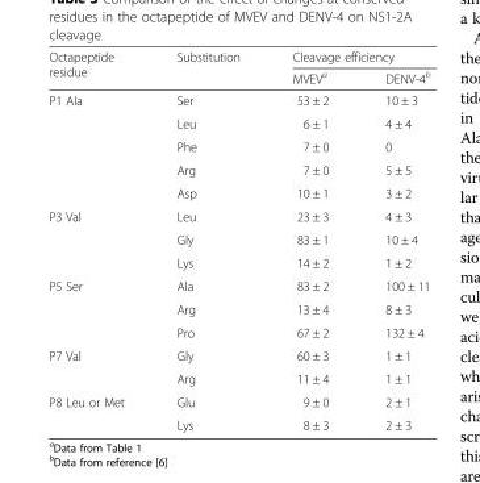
<table><thead><tr><td rowspan="2">Octapeptide residue</td><td rowspan="2">Substitution</td><td colspan="2">Cleavage efficiency</td></tr><tr><td>MVEV<sup>a</sup></td><td>DENV-4<sup>b</sup></td></tr></thead><tbody><tr><td rowspan="5">P1 Ala</td><td>Ser</td><td>53 ± 2</td><td>10 ± 3</td></tr><tr><td>Leu</td><td>6 ± 1</td><td>4 ± 4</td></tr><tr><td>Phe</td><td>7 ± 0</td><td>0</td></tr><tr><td>Arg</td><td>7 ± 0</td><td>5 ± 5</td></tr><tr><td>Asp</td><td>10 ± 1</td><td>3 ± 2</td></tr><tr><td rowspan="3">P3 Val</td><td>Leu</td><td>23 ± 3</td><td>4 ± 3</td></tr><tr><td>Gly</td><td>83 ± 1</td><td>10 ± 4</td></tr><tr><td>Lys</td><td>14 ± 2</td><td>1 ± 2</td></tr><tr><td rowspan="3">P5 Ser</td><td>Ala</td><td>83 ± 2</td><td>100 ± 11</td></tr><tr><td>Arg</td><td>13 ± 4</td><td>8 ± 3</td></tr><tr><td>Pro</td><td>67 ± 2</td><td>132 ± 4</td></tr><tr><td rowspan="2">P7 Val</td><td>Gly</td><td>60 ± 3</td><td>1 ± 1</td></tr><tr><td>Arg</td><td>11 ± 4</td><td>1 ± 1</td></tr><tr><td rowspan="2">P8 Leu or Met</td><td>Glu</td><td>9 ± 0</td><td>2 ± 1</td></tr><tr><td>Lys</td><td>8 ± 3</td><td>2 ± 3</td></tr></tbody></table>